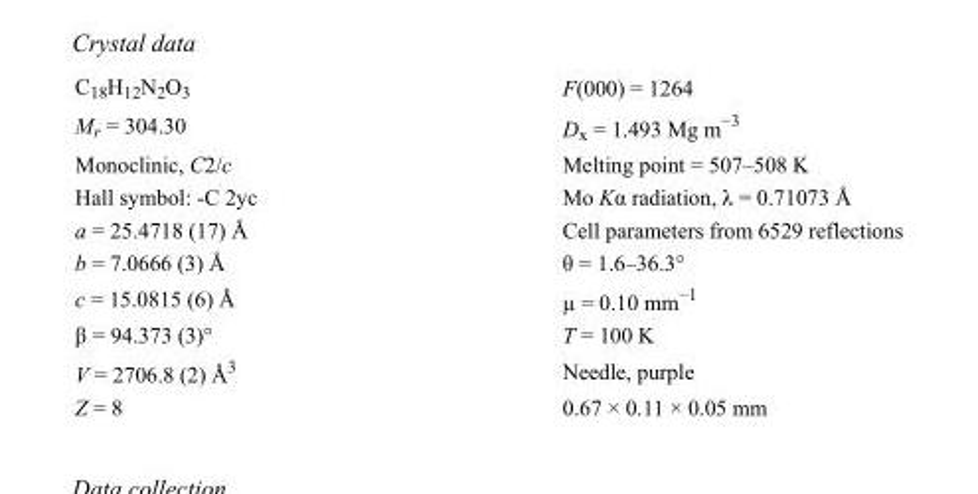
<table><tbody><tr><td>C<sub>18</sub>H<sub>12</sub>N<sub>2</sub>O<sub>3</sub></td><td>F(000) = 1264</td></tr><tr><td>M<sub>r</sub> = 304.30</td><td>D<sub>x</sub> = 1.493 Mg m<sup>−3</sup></td></tr><tr><td>Monoclinic, C2/c</td><td>Melting point = 507–508 K</td></tr><tr><td>Hall symbol: -C 2yc</td><td>Mo Kα radiation, λ = 0.71073 Å</td></tr><tr><td>a = 25.4718 (17) Å</td><td>Cell parameters from 6529 reflections</td></tr><tr><td>b = 7.0666 (3) Å</td><td>θ = 1.6–36.3°</td></tr><tr><td>c = 15.0815 (6) Å</td><td>µ = 0.10 mm<sup>−1</sup></td></tr><tr><td>β = 94.373 (3)°</td><td>T = 100 K</td></tr><tr><td>V = 2706.8 (2) Å<sup>3</sup></td><td>Needle, purple</td></tr><tr><td>Z = 8</td><td>0.67 × 0.11 × 0.05 mm</td></tr></tbody></table>